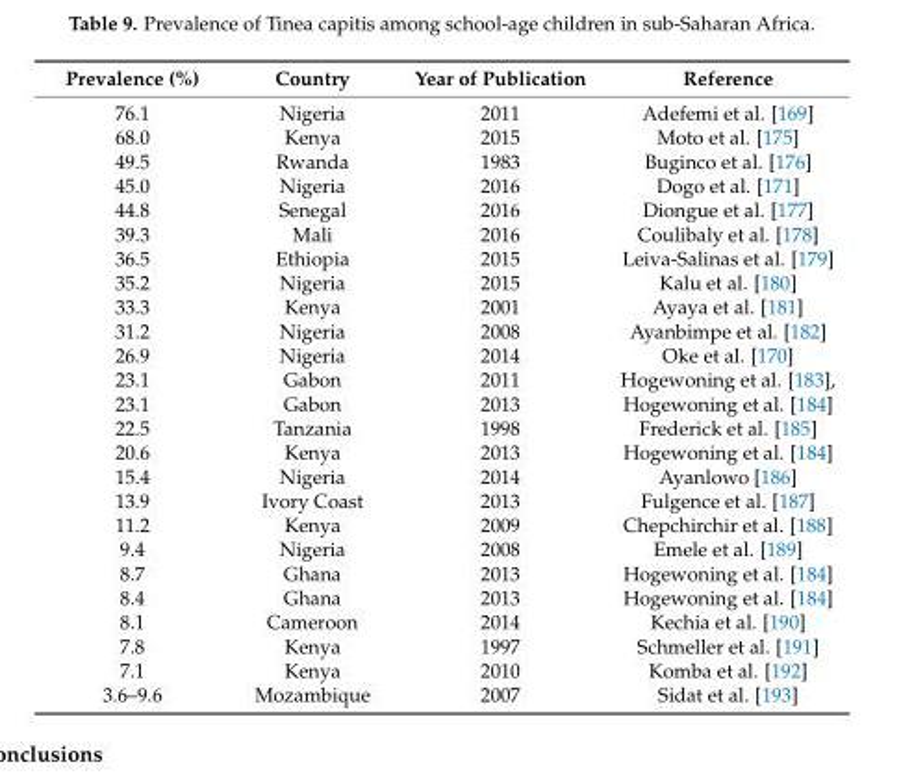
<table><thead><tr><td>Prevalence (%)</td><td>Country</td><td>Year of Publication</td><td>Reference</td></tr></thead><tbody><tr><td>76.1</td><td>Nigeria</td><td>2011</td><td>Adefemi et al. [169]</td></tr><tr><td>68.0</td><td>Kenya</td><td>2015</td><td>Moto et al. [175]</td></tr><tr><td>49.5</td><td>Rwanda</td><td>1983</td><td>Buginco et al. [176]</td></tr><tr><td>45.0</td><td>Nigeria</td><td>2016</td><td>Dogo et al. [171]</td></tr><tr><td>44.8</td><td>Senegal</td><td>2016</td><td>Diongue et al. [177]</td></tr><tr><td>39.3</td><td>Mali</td><td>2016</td><td>Coulibaly et al. [178]</td></tr><tr><td>36.5</td><td>Ethiopia</td><td>2015</td><td>Leiva-Salinas et al. [179]</td></tr><tr><td>35.2</td><td>Nigeria</td><td>2015</td><td>Kalu et al. [180]</td></tr><tr><td>33.3</td><td>Kenya</td><td>2001</td><td>Ayaya et al. [181]</td></tr><tr><td>31.2</td><td>Nigeria</td><td>2008</td><td>Ayanbimpe et al. [182]</td></tr><tr><td>26.9</td><td>Nigeria</td><td>2014</td><td>Oke et al. [170]</td></tr><tr><td>23.1</td><td>Gabon</td><td>2011</td><td>Hogewoning et al. [183],</td></tr><tr><td>23.1</td><td>Gabon</td><td>2013</td><td>Hogewoning et al. [184]</td></tr><tr><td>22.5</td><td>Tanzania</td><td>1998</td><td>Frederick et al. [185]</td></tr><tr><td>20.6</td><td>Kenya</td><td>2013</td><td>Hogewoning et al. [184]</td></tr><tr><td>15.4</td><td>Nigeria</td><td>2014</td><td>Ayanlowo [186]</td></tr><tr><td>13.9</td><td>Ivory Coast</td><td>2013</td><td>Fulgence et al. [187]</td></tr><tr><td>11.2</td><td>Kenya</td><td>2009</td><td>Chepchirchir et al. [188]</td></tr><tr><td>9.4</td><td>Nigeria</td><td>2008</td><td>Emele et al. [189]</td></tr><tr><td>8.7</td><td>Ghana</td><td>2013</td><td>Hogewoning et al. [184]</td></tr><tr><td>8.4</td><td>Ghana</td><td>2013</td><td>Hogewoning et al. [184]</td></tr><tr><td>8.1</td><td>Cameroon</td><td>2014</td><td>Kechia et al. [190]</td></tr><tr><td>7.8</td><td>Kenya</td><td>1997</td><td>Schmeller et al. [191]</td></tr><tr><td>7.1</td><td>Kenya</td><td>2010</td><td>Komba et al. [192]</td></tr><tr><td>3.6–9.6</td><td>Mozambique</td><td>2007</td><td>Sidat et al. [193]</td></tr></tbody></table>